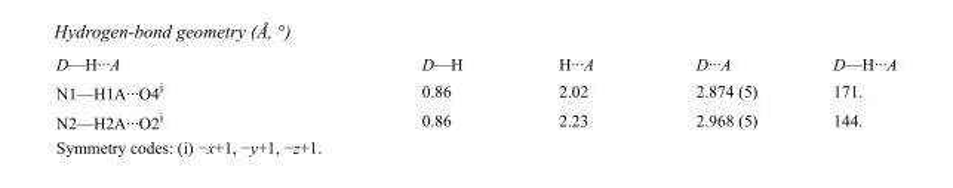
<table><tbody><tr><td>D—H···A</td><td>D—H</td><td>H···A</td><td>D···A</td><td>D—H···A</td></tr><tr><td>N1—H1A···O4<sup>i</sup></td><td>0.86</td><td>2.02</td><td>2.874 (5)</td><td>171.</td></tr><tr><td>N2—H2A···O2<sup>i</sup></td><td>0.86</td><td>2.23</td><td>2.968 (5)</td><td>144.</td></tr></tbody></table>